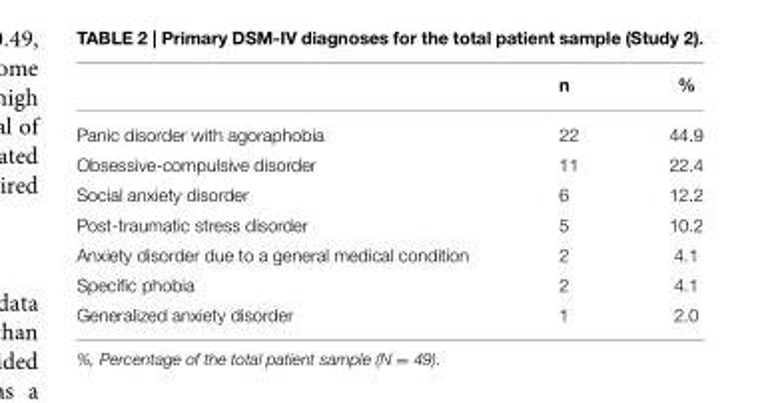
<table><thead><tr><td></td><td>n</td><td>%</td></tr></thead><tbody><tr><td>Panic disorder with agoraphobia</td><td>22</td><td>44.9</td></tr><tr><td>Obsessive-compulsive disorder</td><td>11</td><td>22.4</td></tr><tr><td>Social anxiety disorder</td><td>6</td><td>12.2</td></tr><tr><td>Post-traumatic stress disorder</td><td>5</td><td>10.2</td></tr><tr><td>Anxiety disorder due to a general medical condition</td><td>2</td><td>4.1</td></tr><tr><td>Specific phobia</td><td>2</td><td>4.1</td></tr><tr><td>Generalized anxiety disorder</td><td>1</td><td>2.0</td></tr></tbody></table>